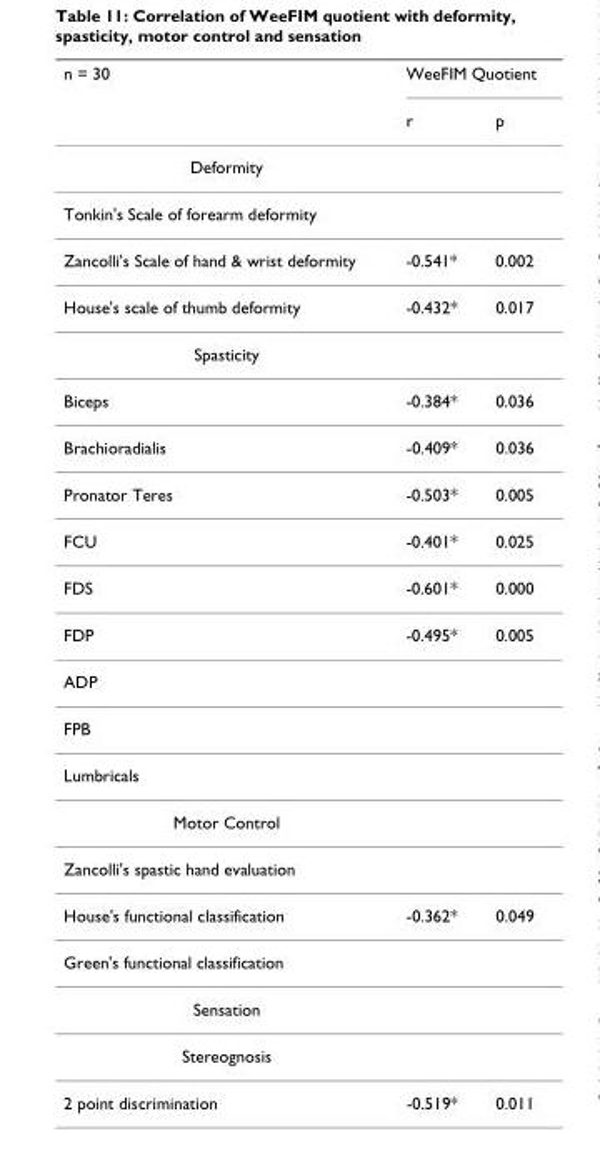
<table><thead><tr><td rowspan="2">n = 30</td><td colspan="2">WeeFIM Quotient</td></tr><tr><td>r</td><td>p</td></tr></thead><tbody><tr><td colspan="3">Deformity</td></tr><tr><td colspan="3">Tonkin&#x27;s Scale of forearm deformity</td></tr><tr><td>Zancolli&#x27;s Scale of hand &amp; wrist deformity</td><td>-0.541*</td><td>0.002</td></tr><tr><td>House&#x27;s scale of thumb deformity</td><td>-0.432*</td><td>0.017</td></tr><tr><td colspan="3">Spasticity</td></tr><tr><td>Biceps</td><td>-0.384*</td><td>0.036</td></tr><tr><td>Brachioradialis</td><td>-0.409*</td><td>0.036</td></tr><tr><td>Pronator Teres</td><td>-0.503*</td><td>0.005</td></tr><tr><td>FCU</td><td>-0.401*</td><td>0.025</td></tr><tr><td>FDS</td><td>-0.601*</td><td>0.000</td></tr><tr><td>FDP</td><td>-0.495*</td><td>0.005</td></tr><tr><td colspan="3">ADP</td></tr><tr><td colspan="3">FPB</td></tr><tr><td colspan="3">Lumbricals</td></tr><tr><td colspan="3">Motor Control</td></tr><tr><td colspan="3">Zancolli&#x27;s spastic hand evaluation</td></tr><tr><td>House&#x27;s functional classification</td><td>-0.362*</td><td>0.049</td></tr><tr><td colspan="3">Green&#x27;s functional classification</td></tr><tr><td colspan="3">Sensation</td></tr><tr><td colspan="3">Stereognosis</td></tr><tr><td>2 point discrimination</td><td>-0.519*</td><td>0.011</td></tr></tbody></table>